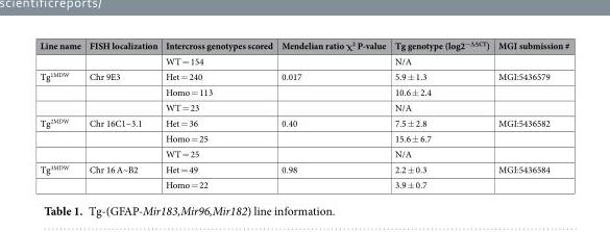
<table><thead><tr><td>Line name</td><td>FISH localization</td><td>Intercross genotypes scored</td><td>Mendelian ratio χ<sup>2</sup> P-value</td><td>Tg genotype (log2<sup>−∆∆CT</sup>)</td><td>MGI submission #</td></tr></thead><tbody><tr><td></td><td></td><td>WT = 154</td><td></td><td>N/A</td><td></td></tr><tr><td rowspan="3">Tg<sup>1MDW</sup></td><td>Chr 9E3</td><td>Het = 240</td><td>0.017</td><td>5.9 ± 1.3</td><td>MGI:5436579</td></tr><tr><td></td><td>Homo = 113</td><td></td><td>10.6 ± 2.4</td><td></td></tr><tr><td></td><td>WT = 23</td><td></td><td>N/A</td><td></td></tr><tr><td rowspan="3">Tg<sup>2MDW</sup></td><td>Chr 16C1~3.1</td><td>Het = 36</td><td>0.40</td><td>7.5 ± 2.8</td><td>MGI:5436582</td></tr><tr><td></td><td>Homo = 25</td><td></td><td>15.6 ± 6.7</td><td></td></tr><tr><td></td><td>WT = 25</td><td></td><td>N/A</td><td></td></tr><tr><td rowspan="2">Tg<sup>3MDW</sup></td><td>Chr 16 A~B2</td><td>Het = 49</td><td>0.98</td><td>2.2 ± 0.3</td><td>MGI:5436584</td></tr><tr><td></td><td>Homo = 22</td><td></td><td>3.9 ± 0.7</td><td></td></tr></tbody></table>